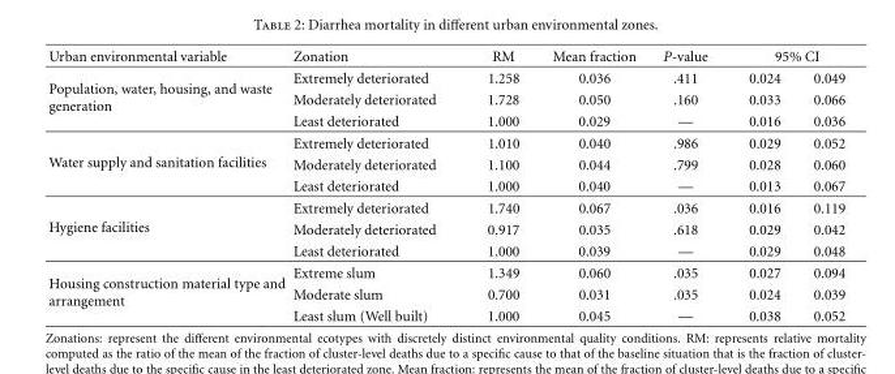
<table><thead><tr><td>Urban environmental variable</td><td>Zonation</td><td>RM</td><td>Mean fraction</td><td>P-value</td><td>95% CI</td></tr></thead><tbody><tr><td rowspan="3">Population, water, housing, and waste generation</td><td>Extremely deteriorated</td><td>1.258</td><td>0.036</td><td>.411</td><td>0.024 0.049</td></tr><tr><td>Moderately deteriorated</td><td>1.728</td><td>0.050</td><td>.160</td><td>0.033 0.066</td></tr><tr><td>Least deteriorated</td><td>1.000</td><td>0.029</td><td>—</td><td>0.016 0.036</td></tr><tr><td rowspan="3">Water supply and sanitation facilities</td><td>Extremely deteriorated</td><td>1.010</td><td>0.040</td><td>.986</td><td>0.029 0.052</td></tr><tr><td>Moderately deteriorated</td><td>1.100</td><td>0.044</td><td>.799</td><td>0.028 0.060</td></tr><tr><td>Least deteriorated</td><td>1.000</td><td>0.040</td><td>—</td><td>0.013 0.067</td></tr><tr><td rowspan="3">Hygiene facilities</td><td>Extremely deteriorated</td><td>1.740</td><td>0.067</td><td>.036</td><td>0.016 0.119</td></tr><tr><td>Moderately deteriorated</td><td>0.917</td><td>0.035</td><td>.618</td><td>0.029 0.042</td></tr><tr><td>Least deteriorated</td><td>1.000</td><td>0.039</td><td>—</td><td>0.029 0.048</td></tr><tr><td rowspan="3">Housing construction material type and arrangement</td><td>Extreme slum</td><td>1.349</td><td>0.060</td><td>.035</td><td>0.027 0.094</td></tr><tr><td>Moderate slum</td><td>0.700</td><td>0.031</td><td>.035</td><td>0.024 0.039</td></tr><tr><td>Least slum (Well built)</td><td>1.000</td><td>0.045</td><td>—</td><td>0.038 0.052</td></tr></tbody></table>